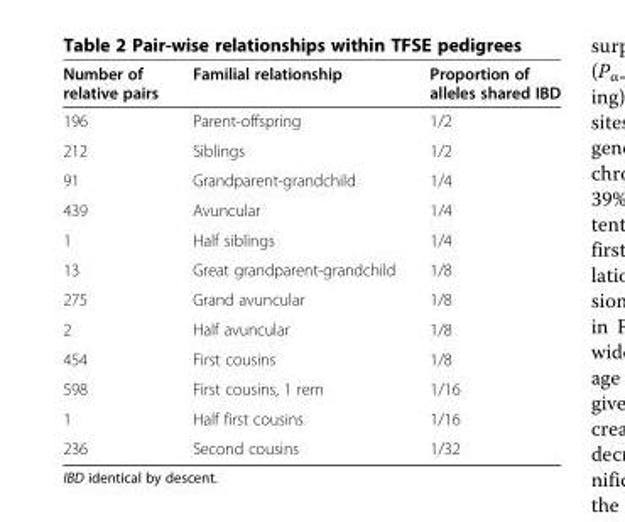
<table><thead><tr><td>Number of relative pairs</td><td>Familial relationship</td><td>Proportion of alleles shared IBD</td></tr></thead><tbody><tr><td>196</td><td>Parent-offspring</td><td>1/2</td></tr><tr><td>212</td><td>Siblings</td><td>1/2</td></tr><tr><td>91</td><td>Grandparent-grandchild</td><td>1/4</td></tr><tr><td>439</td><td>Avuncular</td><td>1/4</td></tr><tr><td>1</td><td>Half siblings</td><td>1/4</td></tr><tr><td>13</td><td>Great grandparent-grandchild</td><td>1/8</td></tr><tr><td>275</td><td>Grand avuncular</td><td>1/8</td></tr><tr><td>2</td><td>Half avuncular</td><td>1/8</td></tr><tr><td>454</td><td>First cousins</td><td>1/8</td></tr><tr><td>598</td><td>First cousins, 1 rem</td><td>1/16</td></tr><tr><td>1</td><td>Half first cousins</td><td>1/16</td></tr><tr><td>236</td><td>Second cousins</td><td>1/32</td></tr></tbody></table>